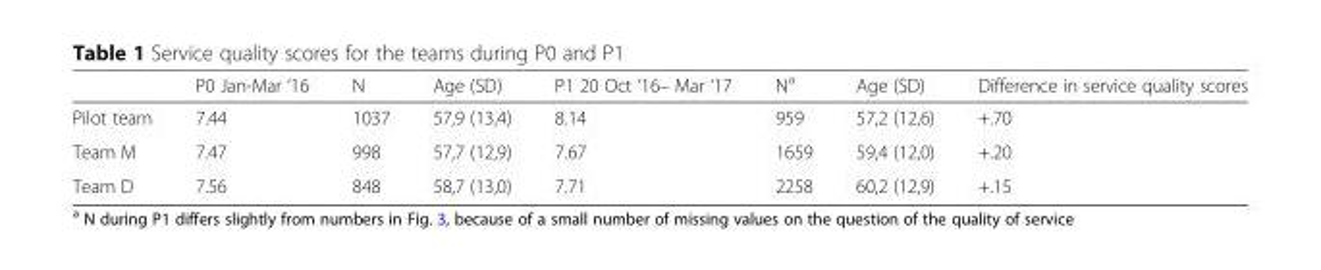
<table><thead><tr><td></td><td>P0 Jan-Mar ‘16</td><td>N</td><td>Age (SD)</td><td>P1 20 Oct ‘16– Mar ‘17</td><td>N<sup>a</sup></td><td>Age (SD)</td><td>Difference in service quality scores</td></tr></thead><tbody><tr><td>Pilot team</td><td>7.44</td><td>1037</td><td>57,9 (13,4)</td><td>8.14</td><td>959</td><td>57,2 (12,6)</td><td>+.70</td></tr><tr><td>Team M</td><td>7.47</td><td>998</td><td>57,7 (12,9)</td><td>7.67</td><td>1659</td><td>59,4 (12,0)</td><td>+.20</td></tr><tr><td>Team D</td><td>7.56</td><td>848</td><td>58,7 (13,0)</td><td>7.71</td><td>2258</td><td>60,2 (12,9)</td><td>+.15</td></tr></tbody></table>